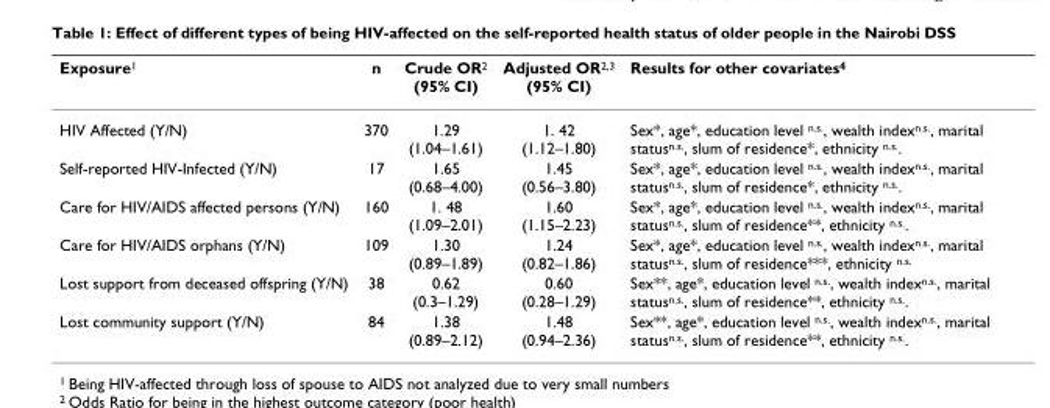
<table><thead><tr><td>Exposure<sup>1</sup></td><td>n</td><td>Crude OR<sup>2</sup> (95% CI)</td><td>Adjusted OR<sup>2,3</sup> (95% CI)</td><td>Results for other covariates<sup>4</sup></td></tr></thead><tbody><tr><td>HIV Affected (Y/N)</td><td>370</td><td>1.29 (1.04–1.61)</td><td>1. 42 (1.12–1.80)</td><td>Sex*, age*, education level <sup>n.s.</sup>, wealth index<sup>n.s.</sup>, marital status<sup>n.s.</sup>, slum of residence*, ethnicity <sup>n.s.</sup>.</td></tr><tr><td>Self-reported HIV-Infected (Y/N)</td><td>17</td><td>1.65 (0.68–4.00)</td><td>1.45 (0.56–3.80)</td><td>Sex*, age*, education level <sup>n.s.</sup>, wealth index<sup>n.s.</sup>, marital status<sup>n.s.</sup>, slum of residence*, ethnicity <sup>n.s.</sup>.</td></tr><tr><td>Care for HIV/AIDS affected persons (Y/N)</td><td>160</td><td>1. 48 (1.09–2.01)</td><td>1.60 (1.15–2.23)</td><td>Sex*, age*, education level <sup>n.s.</sup>, wealth index<sup>n.s.</sup>, marital status<sup>n.s.</sup>, slum of residence**, ethnicity <sup>n.s.</sup>.</td></tr><tr><td>Care for HIV/AIDS orphans (Y/N)</td><td>109</td><td>1.30 (0.89–1.89)</td><td>1.24 (0.82–1.86)</td><td>Sex*, age*, education level <sup>n.s.</sup>, wealth index<sup>n.s.</sup>, marital status<sup>n.s.</sup>, slum of residence***, ethnicity <sup>n.s.</sup></td></tr><tr><td>Lost support from deceased offspring (Y/N)</td><td>38</td><td>0.62 (0.3–1.29)</td><td>0.60 (0.28–1.29)</td><td>Sex**, age*, education level <sup>n.s.</sup>, wealth index<sup>n.s.</sup>, marital status<sup>n.s.</sup>, slum of residence**, ethnicity <sup>n.s.</sup>.</td></tr><tr><td>Lost community support (Y/N)</td><td>84</td><td>1.38 (0.89–2.12)</td><td>1.48 (0.94–2.36)</td><td>Sex**, age*, education level <sup>n.s.</sup>, wealth index<sup>n.s.</sup>, marital status<sup>n.s.</sup>, slum of residence**, ethnicity <sup>n.s.</sup>.</td></tr></tbody></table>